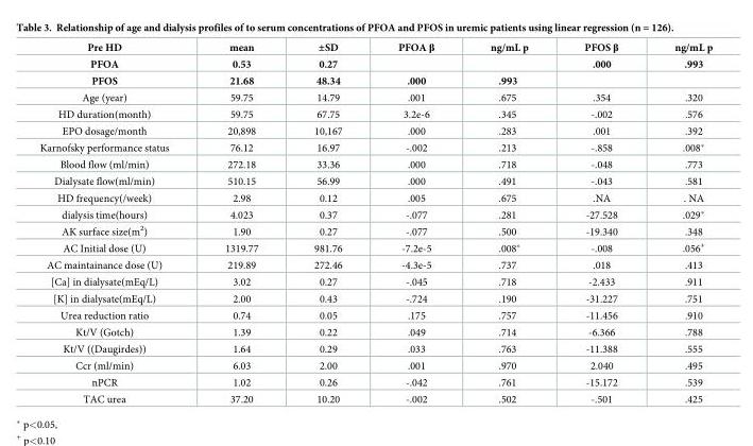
<table><thead><tr><td>Pre HD</td><td>mean</td><td>±SD</td><td>PFOA β</td><td>ng/mL p</td><td>PFOS β</td><td>ng/mL p</td></tr></thead><tbody><tr><td>PFOA</td><td>0.53</td><td>0.27</td><td></td><td></td><td>.000</td><td>.993</td></tr><tr><td>PFOS</td><td>21.68</td><td>48.34</td><td>.000</td><td>.993</td><td></td><td></td></tr><tr><td>Age (year)</td><td>59.75</td><td>14.79</td><td>.001</td><td>.675</td><td>.354</td><td>.320</td></tr><tr><td>HD duration(month)</td><td>59.75</td><td>67.75</td><td>3.2e-6</td><td>.345</td><td>-.002</td><td>.576</td></tr><tr><td>EPO dosage/month</td><td>20,898</td><td>10,167</td><td>.000</td><td>.283</td><td>.001</td><td>.392</td></tr><tr><td>Karnofsky performance status</td><td>76.12</td><td>16.97</td><td>-.002</td><td>.213</td><td>-.858</td><td>.008*</td></tr><tr><td>Blood flow (ml/min)</td><td>272.18</td><td>33.36</td><td>.000</td><td>.718</td><td>-.048</td><td>.773</td></tr><tr><td>Dialysate flow(ml/min)</td><td>510.15</td><td>56.99</td><td>.000</td><td>.491</td><td>-.043</td><td>.581</td></tr><tr><td>HD frequency(/week)</td><td>2.98</td><td>0.12</td><td>.005</td><td>.675</td><td>.NA</td><td>. NA</td></tr><tr><td>dialysis time(hours)</td><td>4.023</td><td>0.37</td><td>-.077</td><td>.281</td><td>-27.528</td><td>.029*</td></tr><tr><td>AK surface size(m<sup>2</sup>)</td><td>1.90</td><td>0.27</td><td>-.077</td><td>.500</td><td>-19.340</td><td>.348</td></tr><tr><td>AC Initial dose (U)</td><td>1319.77</td><td>981.76</td><td>-7.2e-5</td><td>.008*</td><td>-.008</td><td>.056<sup>+</sup></td></tr><tr><td>AC maintainance dose (U)</td><td>219.89</td><td>272.46</td><td>-4.3e-5</td><td>.737</td><td>.018</td><td>.413</td></tr><tr><td>[Ca] in dialysate(mEq/L)</td><td>3.02</td><td>0.27</td><td>-.045</td><td>.718</td><td>-2.433</td><td>.911</td></tr><tr><td>[K] in dialysate(mEq/L)</td><td>2.00</td><td>0.43</td><td>-.724</td><td>.190</td><td>-31.227</td><td>.751</td></tr><tr><td>Urea reduction ratio</td><td>0.74</td><td>0.05</td><td>.175</td><td>.757</td><td>-11.456</td><td>.910</td></tr><tr><td>Kt/V (Gotch)</td><td>1.39</td><td>0.22</td><td>.049</td><td>.714</td><td>-6.366</td><td>.788</td></tr><tr><td>Kt/V ((Daugirdes))</td><td>1.64</td><td>0.29</td><td>.033</td><td>.763</td><td>-11.388</td><td>.555</td></tr><tr><td>Ccr (ml/min)</td><td>6.03</td><td>2.00</td><td>.001</td><td>.970</td><td>2.040</td><td>.495</td></tr><tr><td>nPCR</td><td>1.02</td><td>0.26</td><td>-.042</td><td>.761</td><td>-15.172</td><td>.539</td></tr><tr><td>TAC urea</td><td>37.20</td><td>10.20</td><td>-.002</td><td>.502</td><td>-.501</td><td>.425</td></tr></tbody></table>